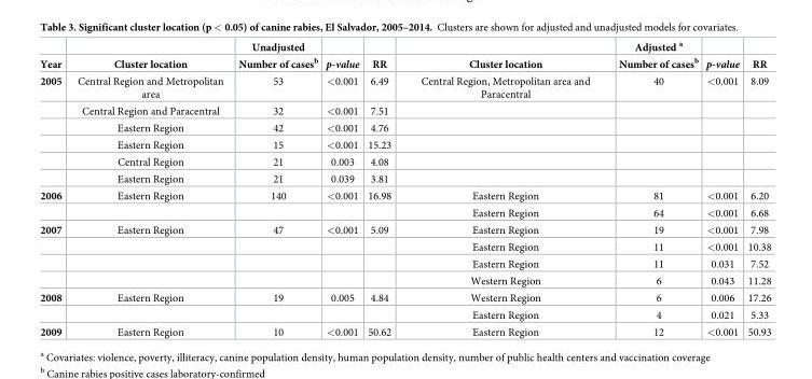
<table><thead><tr><td rowspan="2">Year</td><td rowspan="2">Cluster location</td><td rowspan="2">Unadjusted Number of cases<sup>b</sup></td><td rowspan="2">p-value</td><td rowspan="2">RR</td><td rowspan="2">Cluster location</td><td rowspan="2">Adjusted <sup>a</sup> Number of cases<sup>b</sup></td><td rowspan="2">p-value</td><td rowspan="2">RR</td></tr><tr></tr></thead><tbody><tr><td rowspan="6">2005</td><td>Central Region and Metropolitan area</td><td>53</td><td>&lt;0.001</td><td>6.49</td><td>Central Region, Metropolitan area and Paracentral</td><td>40</td><td>&lt;0.001</td><td>8.09</td></tr><tr><td>Central Region and Paracentral</td><td>32</td><td>&lt;0.001</td><td>7.51</td><td></td><td></td><td></td><td></td></tr><tr><td>Eastern Region</td><td>42</td><td>&lt;0.001</td><td>4.76</td><td></td><td></td><td></td><td></td></tr><tr><td>Eastern Region</td><td>15</td><td>&lt;0.001</td><td>15.23</td><td></td><td></td><td></td><td></td></tr><tr><td>Central Region</td><td>21</td><td>0.003</td><td>4.08</td><td></td><td></td><td></td><td></td></tr><tr><td>Eastern Region</td><td>21</td><td>0.039</td><td>3.81</td><td></td><td></td><td></td><td></td></tr><tr><td rowspan="2">2006</td><td>Eastern Region</td><td>140</td><td>&lt;0.001</td><td>16.98</td><td>Eastern Region</td><td>81</td><td>&lt;0.001</td><td>6.20</td></tr><tr><td></td><td></td><td></td><td></td><td>Eastern Region</td><td>64</td><td>&lt;0.001</td><td>6.68</td></tr><tr><td rowspan="4">2007</td><td>Eastern Region</td><td>47</td><td>&lt;0.001</td><td>5.09</td><td>Eastern Region</td><td>19</td><td>&lt;0.001</td><td>7.98</td></tr><tr><td></td><td></td><td></td><td></td><td>Eastern Region</td><td>11</td><td>&lt;0.001</td><td>10.38</td></tr><tr><td></td><td></td><td></td><td></td><td>Eastern Region</td><td>11</td><td>0.031</td><td>7.52</td></tr><tr><td></td><td></td><td></td><td></td><td>Western Region</td><td>6</td><td>0.043</td><td>11.28</td></tr><tr><td rowspan="2">2008</td><td>Eastern Region</td><td>19</td><td>0.005</td><td>4.84</td><td>Western Region</td><td>6</td><td>0.006</td><td>17.26</td></tr><tr><td></td><td></td><td></td><td></td><td>Eastern Region</td><td>4</td><td>0.021</td><td>5.33</td></tr><tr><td>2009</td><td>Eastern Region</td><td>10</td><td>&lt;0.001</td><td>50.62</td><td>Eastern Region</td><td>12</td><td>&lt;0.001</td><td>50.93</td></tr></tbody></table>